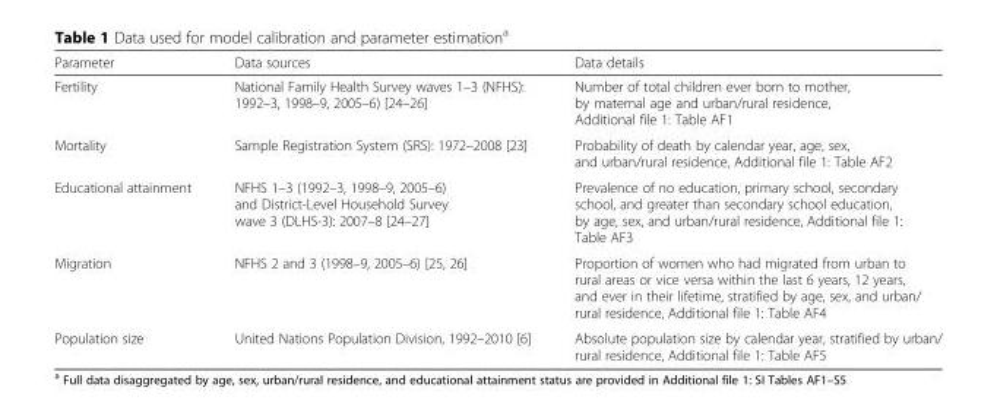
<table><thead><tr><td>Parameter</td><td>Data sources</td><td>Data details</td></tr></thead><tbody><tr><td>Fertility</td><td>National Family Health Survey waves 1–3 (NFHS): 1992–3, 1998–9, 2005–6) [24–26]</td><td>Number of total children ever born to mother, by maternal age and urban/rural residence, Additional file 1: Table AF1</td></tr><tr><td>Mortality</td><td>Sample Registration System (SRS): 1972–2008 [23]</td><td>Probability of death by calendar year, age, sex, and urban/rural residence, Additional file 1: Table AF2</td></tr><tr><td>Educational attainment</td><td>NFHS 1–3 (1992–3, 1998–9, 2005–6) and District-Level Household Survey wave 3 (DLHS-3): 2007–8 [24–27]</td><td>Prevalence of no education, primary school, secondary school, and greater than secondary school education, by age, sex, and urban/rural residence, Additional file 1: Table AF3</td></tr><tr><td>Migration</td><td>NFHS 2 and 3 (1998–9, 2005–6) [25, 26]</td><td>Proportion of women who had migrated from urban to rural areas or vice versa within the last 6 years, 12 years, and ever in their lifetime, stratified by age, sex, and urban/ rural residence, Additional file 1: Table AF4</td></tr><tr><td>Population size</td><td>United Nations Population Division, 1992–2010 [6]</td><td>Absolute population size by calendar year, stratified by urban/ rural residence, Additional file 1: Table AF5</td></tr></tbody></table>